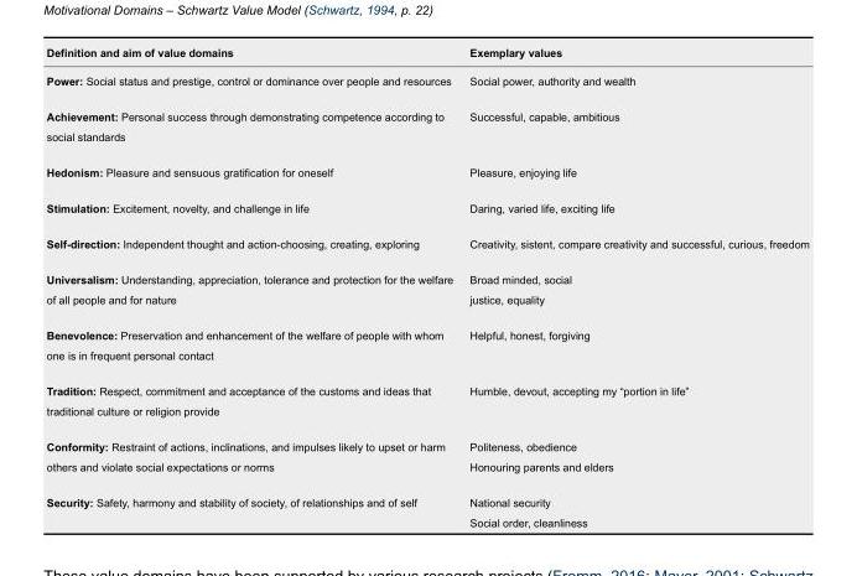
<table><thead><tr><td>Definition and aim of value domains</td><td>Exemplary values</td></tr></thead><tbody><tr><td>Power: Social status and prestige, control or dominance over people and resources</td><td>Social power, authority and wealth</td></tr><tr><td>Achievement: Personal success through demonstrating competence according to social standards</td><td>Successful, capable, ambitious</td></tr><tr><td>Hedonism: Pleasure and sensuous gratification for oneself</td><td>Pleasure, enjoying life</td></tr><tr><td>Stimulation: Excitement, novelty, and challenge in life</td><td>Daring, varied life, exciting life</td></tr><tr><td>Self-direction: Independent thought and action-choosing, creating, exploring</td><td>Creativity, sistent, compare creativity and successful, curious, freedom</td></tr><tr><td>Universalism: Understanding, appreciation, tolerance and protection for the welfare of all people and for nature</td><td>Broad minded, social justice, equality</td></tr><tr><td>Benevolence: Preservation and enhancement of the welfare of people with whom one is in frequent personal contact</td><td>Helpful, honest, forgiving</td></tr><tr><td>Tradition: Respect, commitment and acceptance of the customs and ideas that traditional culture or religion provide</td><td>Humble, devout, accepting my “portion in life”</td></tr><tr><td>Conformity: Restraint of actions, inclinations, and impulses likely to upset or harm others and violate social expectations or norms</td><td>Politeness, obedience Honouring parents and elders</td></tr><tr><td>Security: Safety, harmony and stability of society, of relationships and of self</td><td>National security Social order, cleanliness</td></tr></tbody></table>